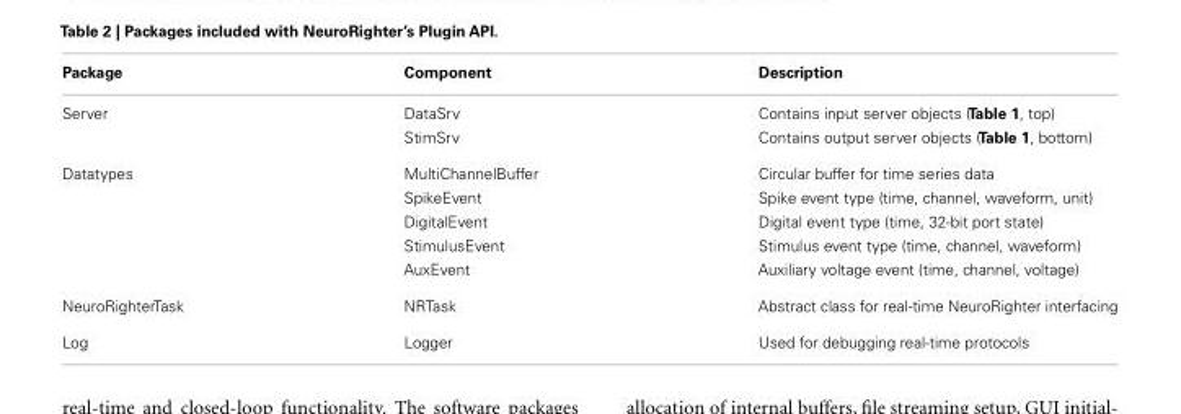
<table><thead><tr><td>Package</td><td>Component</td><td>Description</td></tr></thead><tbody><tr><td rowspan="2">Server</td><td>DataSrv</td><td>Contains input server objects (Table 1, top)</td></tr><tr><td>StimSrv</td><td>Contains output server objects (Table 1, bottom)</td></tr><tr><td rowspan="5">Datatypes</td><td>MultiChannelBuffer</td><td>Circular buffer for time series data</td></tr><tr><td>SpikeEvent</td><td>Spike event type (time, channel, waveform, unit)</td></tr><tr><td>DigitalEvent</td><td>Digital event type (time, 32-bit port state)</td></tr><tr><td>StimulusEvent</td><td>Stimulus event type (time, channel, waveform)</td></tr><tr><td>AuxEvent</td><td>Auxiliary voltage event (time, channel, voltage)</td></tr><tr><td>NeuroRighterTask</td><td>NRTask</td><td>Abstract class for real-time NeuroRighter interfacing</td></tr><tr><td>Log</td><td>Logger</td><td>Used for debugging real-time protocols</td></tr></tbody></table>